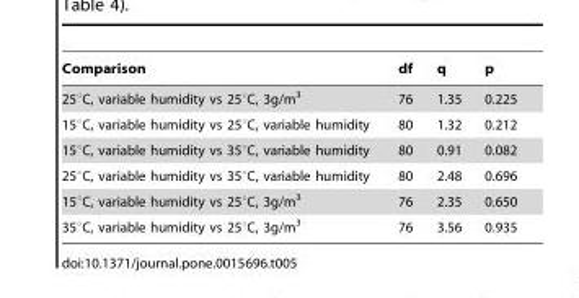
<table><thead><tr><td>Comparison</td><td>df</td><td>q</td><td>p</td></tr></thead><tbody><tr><td>25°C, variable humidity vs 25°C, 3g/m<sup>3</sup></td><td>76</td><td>1.35</td><td>0.225</td></tr><tr><td>15°C, variable humidity vs 25°C, variable humidity</td><td>80</td><td>1.32</td><td>0.212</td></tr><tr><td>15°C, variable humidity vs 35°C, variable humidity</td><td>80</td><td>0.91</td><td>0.082</td></tr><tr><td>25°C, variable humidity vs 35°C, variable humidity</td><td>80</td><td>2.48</td><td>0.696</td></tr><tr><td>15°C, variable humidity vs 25°C, 3g/m<sup>3</sup></td><td>76</td><td>2.35</td><td>0.650</td></tr><tr><td>35°C, variable humidity vs 25°C, 3g/m<sup>3</sup></td><td>76</td><td>3.56</td><td>0.935</td></tr></tbody></table>